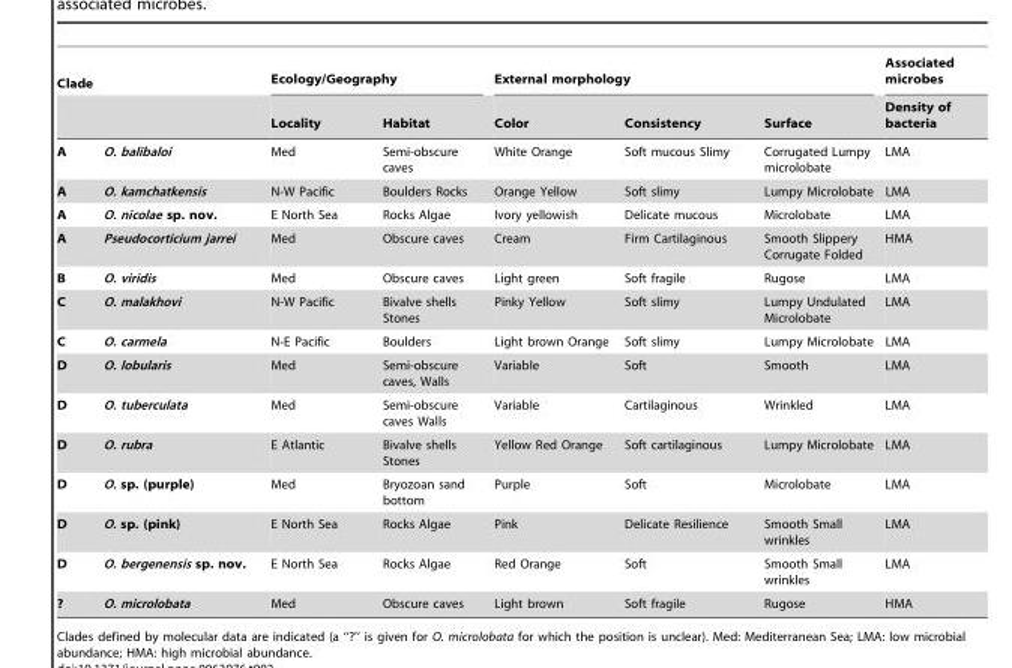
<table><thead><tr><td colspan="2">Clade</td><td colspan="2">Ecology/Geography</td><td colspan="3">External morphology</td><td rowspan="2">Associated microbes Density of bacteria</td></tr><tr><td></td><td></td><td>Locality</td><td>Habitat</td><td>Color</td><td>Consistency</td><td>Surface</td></tr></thead><tbody><tr><td>A</td><td>O. balibaloi</td><td>Med</td><td>Semi-obscure caves</td><td>White Orange</td><td>Soft mucous Slimy</td><td>Corrugated Lumpy microlobate</td><td>LMA</td></tr><tr><td>A</td><td>O. kamchatkensis</td><td>N-W Pacific</td><td>Boulders Rocks</td><td>Orange Yellow</td><td>Soft slimy</td><td>Lumpy Microlobate</td><td>LMA</td></tr><tr><td>A</td><td>O. nicolae sp. nov.</td><td>E North Sea</td><td>Rocks Algae</td><td>Ivory yellowish</td><td>Delicate mucous</td><td>Microlobate</td><td>LMA</td></tr><tr><td>A</td><td>Pseudocorticium jarrei</td><td>Med</td><td>Obscure caves</td><td>Cream</td><td>Firm Cartilaginous</td><td>Smooth Slippery Corrugate Folded</td><td>HMA</td></tr><tr><td>B</td><td>O. viridis</td><td>Med</td><td>Obscure caves</td><td>Light green</td><td>Soft fragile</td><td>Rugose</td><td>LMA</td></tr><tr><td>C</td><td>O. malakhovi</td><td>N-W Pacific</td><td>Bivalve shells Stones</td><td>Pinky Yellow</td><td>Soft slimy</td><td>Lumpy Undulated Microlobate</td><td>LMA</td></tr><tr><td>C</td><td>O. carmela</td><td>N-E Pacific</td><td>Boulders</td><td>Light brown Orange</td><td>Soft slimy</td><td>Lumpy Microlobate</td><td>LMA</td></tr><tr><td>D</td><td>O. lobularis</td><td>Med</td><td>Semi-obscure caves, Walls</td><td>Variable</td><td>Soft</td><td>Smooth</td><td>LMA</td></tr><tr><td>D</td><td>O. tuberculata</td><td>Med</td><td>Semi-obscure caves Walls</td><td>Variable</td><td>Cartilaginous</td><td>Wrinkled</td><td>LMA</td></tr><tr><td>D</td><td>O. rubra</td><td>E Atlantic</td><td>Bivalve shells Stones</td><td>Yellow Red Orange</td><td>Soft cartilaginous</td><td>Lumpy Microlobate</td><td>LMA</td></tr><tr><td>D</td><td>O. sp. (purple)</td><td>Med</td><td>Bryozoan sand bottom</td><td>Purple</td><td>Soft</td><td>Microlobate</td><td>LMA</td></tr><tr><td>D</td><td>O. sp. (pink)</td><td>E North Sea</td><td>Rocks Algae</td><td>Pink</td><td>Delicate Resilience</td><td>Smooth Small wrinkles</td><td>LMA</td></tr><tr><td>D</td><td>O. bergenensis sp. nov.</td><td>E North Sea</td><td>Rocks Algae</td><td>Red Orange</td><td>Soft</td><td>Smooth Small wrinkles</td><td>LMA</td></tr><tr><td>?</td><td>O. microlobata</td><td>Med</td><td>Obscure caves</td><td>Light brown</td><td>Soft fragile</td><td>Rugose</td><td>HMA</td></tr></tbody></table>